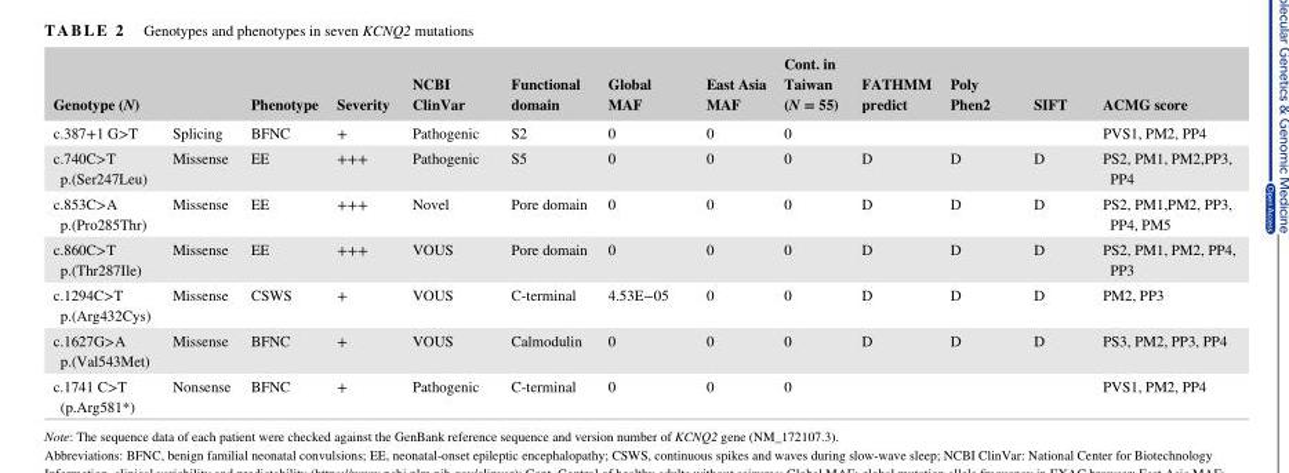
<table><thead><tr><td>Genotype (N)</td><td></td><td>Phenotype</td><td>Severity</td><td>NCBI ClinVar</td><td>Functional domain</td><td>Global MAF</td><td>East Asia MAF</td><td>Cont. in Taiwan (N = 55)</td><td>FATHMM predict</td><td>Poly Phen2</td><td>SIFT</td><td>ACMG score</td></tr></thead><tbody><tr><td>c.387+1 G&gt;T</td><td>Splicing</td><td>BFNC</td><td>+</td><td>Pathogenic</td><td>S2</td><td>0</td><td>0</td><td>0</td><td></td><td></td><td></td><td>PVS1, PM2, PP4</td></tr><tr><td>c.740C&gt;T p.(Ser247Leu)</td><td>Missense</td><td>EE</td><td>+++</td><td>Pathogenic</td><td>S5</td><td>0</td><td>0</td><td>0</td><td>D</td><td>D</td><td>D</td><td>PS2, PM1, PM2,PP3, PP4</td></tr><tr><td>c.853C&gt;A p.(Pro285Thr)</td><td>Missense</td><td>EE</td><td>+++</td><td>Novel</td><td>Pore domain</td><td>0</td><td>0</td><td>0</td><td>D</td><td>D</td><td>D</td><td>PS2, PM1,PM2, PP3, PP4, PM5</td></tr><tr><td>c.860C&gt;T p.(Thr287Ile)</td><td>Missense</td><td>EE</td><td>+++</td><td>VOUS</td><td>Pore domain</td><td>0</td><td>0</td><td>0</td><td>D</td><td>D</td><td>D</td><td>PS2, PM1, PM2, PP4, PP3</td></tr><tr><td>c.1294C&gt;T p.(Arg432Cys)</td><td>Missense</td><td>CSWS</td><td>+</td><td>VOUS</td><td>C‐terminal</td><td>4.53E−05</td><td>0</td><td>0</td><td>D</td><td>D</td><td>D</td><td>PM2, PP3</td></tr><tr><td>c.1627G&gt;A p.(Val543Met)</td><td>Missense</td><td>BFNC</td><td>+</td><td>VOUS</td><td>Calmodulin</td><td>0</td><td>0</td><td>0</td><td>D</td><td>D</td><td>D</td><td>PS3, PM2, PP3, PP4</td></tr><tr><td>c.1741 C&gt;T (p.Arg581*)</td><td>Nonsense</td><td>BFNC</td><td>+</td><td>Pathogenic</td><td>C‐terminal</td><td>0</td><td>0</td><td>0</td><td></td><td></td><td></td><td>PVS1, PM2, PP4</td></tr></tbody></table>